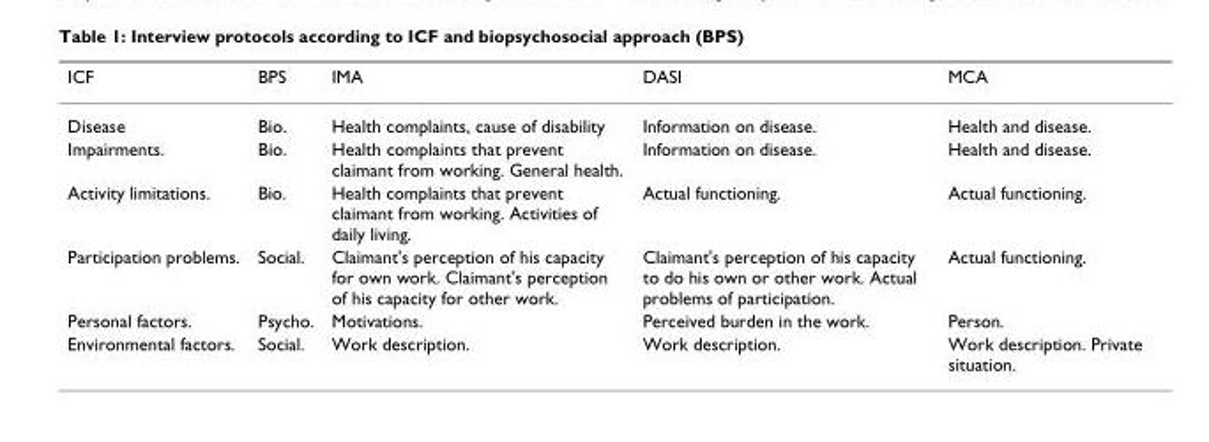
<table><thead><tr><td>ICF</td><td>BPS</td><td>IMA</td><td>DASI</td><td>MCA</td></tr></thead><tbody><tr><td>Disease</td><td>Bio.</td><td>Health complaints, cause of disability</td><td>Information on disease.</td><td>Health and disease.</td></tr><tr><td>Impairments.</td><td>Bio.</td><td>Health complaints that prevent claimant from working. General health.</td><td>Information on disease.</td><td>Health and disease.</td></tr><tr><td>Activity limitations.</td><td>Bio.</td><td>Health complaints that prevent claimant from working. Activities of daily living.</td><td>Actual functioning.</td><td>Actual functioning.</td></tr><tr><td>Participation problems.</td><td>Social.</td><td>Claimant&#x27;s perception of his capacity for own work. Claimant&#x27;s perception of his capacity for other work.</td><td>Claimant&#x27;s perception of his capacity to do his own or other work. Actual problems of participation.</td><td>Actual functioning.</td></tr><tr><td>Personal factors.</td><td>Psycho.</td><td>Motivations.</td><td>Perceived burden in the work.</td><td>Person.</td></tr><tr><td>Environmental factors.</td><td>Social.</td><td>Work description.</td><td>Work description.</td><td>Work description. Private situation.</td></tr></tbody></table>